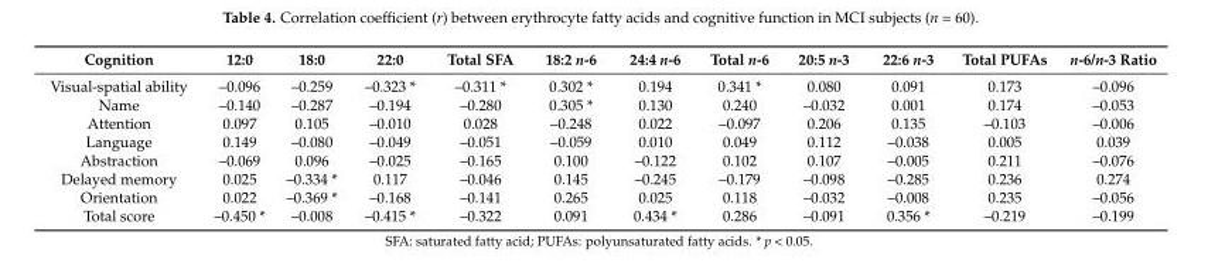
<table><thead><tr><td>Cognition</td><td>12:0</td><td>18:0</td><td>22:0</td><td>Total SFA</td><td>18:2 n-6</td><td>24:4 n-6</td><td>Total n-6</td><td>20:5 n-3</td><td>22:6 n-3</td><td>Total PUFAs</td><td>n-6/n-3 Ratio</td></tr></thead><tbody><tr><td>Visual-spatial ability</td><td>–0.096</td><td>–0.259</td><td>–0.323 *</td><td>–0.311 *</td><td>0.302 *</td><td>0.194</td><td>0.341 *</td><td>0.080</td><td>0.091</td><td>0.173</td><td>–0.096</td></tr><tr><td>Name</td><td>–0.140</td><td>–0.287</td><td>–0.194</td><td>–0.280</td><td>0.305 *</td><td>0.130</td><td>0.240</td><td>–0.032</td><td>0.001</td><td>0.174</td><td>–0.053</td></tr><tr><td>Attention</td><td>0.097</td><td>0.105</td><td>–0.010</td><td>0.028</td><td>–0.248</td><td>0.022</td><td>–0.097</td><td>0.206</td><td>0.135</td><td>–0.103</td><td>–0.006</td></tr><tr><td>Language</td><td>0.149</td><td>–0.080</td><td>–0.049</td><td>–0.051</td><td>–0.059</td><td>0.010</td><td>0.049</td><td>0.112</td><td>–0.038</td><td>0.005</td><td>0.039</td></tr><tr><td>Abstraction</td><td>–0.069</td><td>0.096</td><td>–0.025</td><td>–0.165</td><td>0.100</td><td>–0.122</td><td>0.102</td><td>0.107</td><td>–0.005</td><td>0.211</td><td>–0.076</td></tr><tr><td>Delayed memory</td><td>0.025</td><td>–0.334 *</td><td>0.117</td><td>–0.046</td><td>0.145</td><td>–0.245</td><td>–0.179</td><td>–0.098</td><td>–0.285</td><td>0.236</td><td>0.274</td></tr><tr><td>Orientation</td><td>0.022</td><td>–0.369 *</td><td>–0.168</td><td>–0.141</td><td>0.265</td><td>0.025</td><td>0.118</td><td>–0.032</td><td>–0.008</td><td>0.235</td><td>–0.056</td></tr><tr><td>Total score</td><td>–0.450 *</td><td>–0.008</td><td>–0.415 *</td><td>–0.322</td><td>0.091</td><td>0.434 *</td><td>0.286</td><td>–0.091</td><td>0.356 *</td><td>–0.219</td><td>–0.199</td></tr></tbody></table>